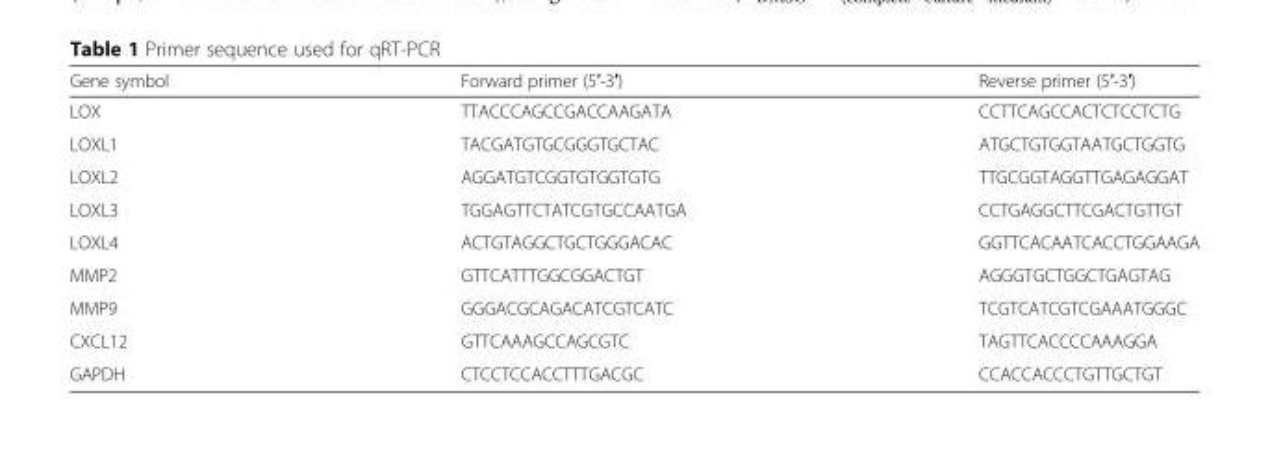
<table><thead><tr><td>Gene symbol</td><td>Forward primer (5′-3′)</td><td>Reverse primer (5′-3′)</td></tr></thead><tbody><tr><td>LOX</td><td>TTACCCAGCCGACCAAGATA</td><td>CCTTCAGCCACTCTCCTCTG</td></tr><tr><td>LOXL1</td><td>TACGATGTGCGGGTGCTAC</td><td>ATGCTGTGGTAATGCTGGTG</td></tr><tr><td>LOXL2</td><td>AGGATGTCGGTGTGGTGTG</td><td>TTGCGGTAGGTTGAGAGGAT</td></tr><tr><td>LOXL3</td><td>TGGAGTTCTATCGTGCCAATGA</td><td>CCTGAGGCTTCGACTGTTGT</td></tr><tr><td>LOXL4</td><td>ACTGTAGGCTGCTGGGACAC</td><td>GGTTCACAATCACCTGGAAGA</td></tr><tr><td>MMP2</td><td>GTTCATTTGGCGGACTGT</td><td>AGGGTGCTGGCTGAGTAG</td></tr><tr><td>MMP9</td><td>GGGACGCAGACATCGTCATC</td><td>TCGTCATCGTCGAAATGGGC</td></tr><tr><td>CXCL12</td><td>GTTCAAAGCCAGCGTC</td><td>TAGTTCACCCCAAAGGA</td></tr><tr><td>GAPDH</td><td>CTCCTCCACCTTTGACGC</td><td>CCACCACCCTGTTGCTGT</td></tr></tbody></table>